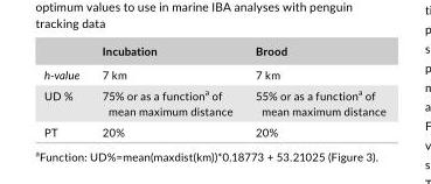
<table><thead><tr><td></td><td>Incubation</td><td>Brood</td></tr></thead><tbody><tr><td>h-value</td><td>7 km</td><td>7 km</td></tr><tr><td>UD %</td><td>75% or as a function<sup>a</sup> of mean maximum distance</td><td>55% or as a function<sup>a</sup> of mean maximum distance</td></tr><tr><td>PT</td><td>20%</td><td>20%</td></tr></tbody></table>